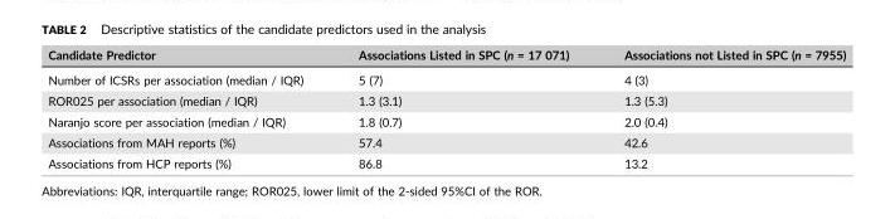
<table><thead><tr><td>Candidate Predictor</td><td>Associations Listed in SPC (n = 17 071)</td><td>Associations not Listed in SPC (n = 7955)</td></tr></thead><tbody><tr><td>Number of ICSRs per association (median / IQR)</td><td>5 (7)</td><td>4 (3)</td></tr><tr><td>ROR025 per association (median / IQR)</td><td>1.3 (3.1)</td><td>1.3 (5.3)</td></tr><tr><td>Naranjo score per association (median / IQR)</td><td>1.8 (0.7)</td><td>2.0 (0.4)</td></tr><tr><td>Associations from MAH reports (%)</td><td>57.4</td><td>42.6</td></tr><tr><td>Associations from HCP reports (%)</td><td>86.8</td><td>13.2</td></tr></tbody></table>